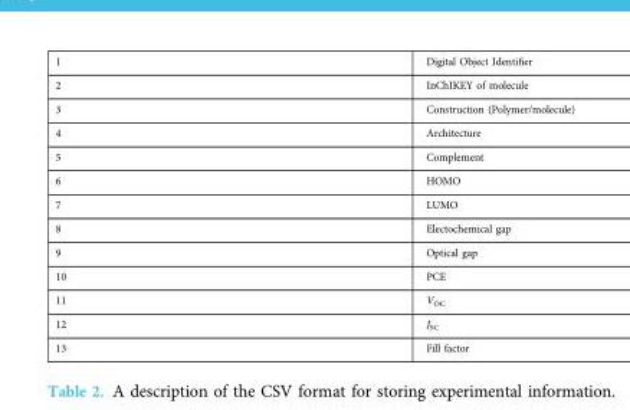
<table><tbody><tr><td>1</td><td>Digital Object Identifier</td></tr><tr><td>2</td><td>InChIKEY of molecule</td></tr><tr><td>3</td><td>Construction (Polymer/molecule)</td></tr><tr><td>4</td><td>Architecture</td></tr><tr><td>5</td><td>Complement</td></tr><tr><td>6</td><td>HOMO</td></tr><tr><td>7</td><td>LUMO</td></tr><tr><td>8</td><td>Electochemical gap</td></tr><tr><td>9</td><td>Optical gap</td></tr><tr><td>10</td><td>PCE</td></tr><tr><td>11</td><td>V<sub>OC</sub></td></tr><tr><td>12</td><td>J<sub>SC</sub></td></tr><tr><td>13</td><td>Fill factor</td></tr></tbody></table>